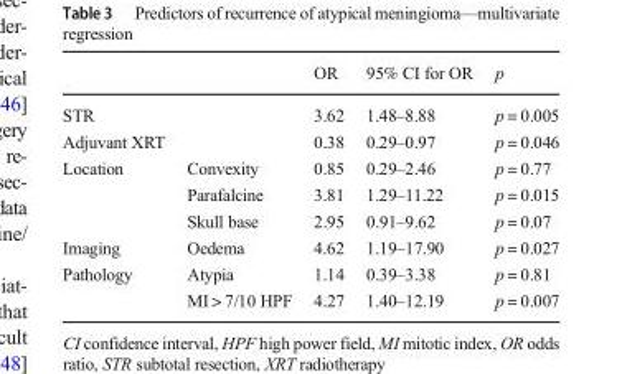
<table><thead><tr><td></td><td></td><td>OR</td><td>95% CI for OR</td><td>p</td></tr></thead><tbody><tr><td>STR</td><td></td><td>3.62</td><td>1.48–8.88</td><td>p = 0.005</td></tr><tr><td>Adjuvant XRT</td><td></td><td>0.38</td><td>0.29–0.97</td><td>p = 0.046</td></tr><tr><td rowspan="3">Location</td><td>Convexity</td><td>0.85</td><td>0.29–2.46</td><td>p = 0.77</td></tr><tr><td>Parafalcine</td><td>3.81</td><td>1.29–11.22</td><td>p = 0.015</td></tr><tr><td>Skull base</td><td>2.95</td><td>0.91–9.62</td><td>p = 0.07</td></tr><tr><td>Imaging</td><td>Oedema</td><td>4.62</td><td>1.19–17.90</td><td>p = 0.027</td></tr><tr><td rowspan="2">Pathology</td><td>Atypia</td><td>1.14</td><td>0.39–3.38</td><td>p = 0.81</td></tr><tr><td>MI &gt; 7/10 HPF</td><td>4.27</td><td>1.40–12.19</td><td>p = 0.007</td></tr></tbody></table>